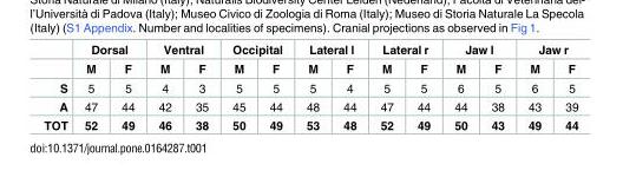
<table><thead><tr><td rowspan="2"></td><td colspan="2">Dorsal</td><td colspan="2">Ventral</td><td colspan="2">Occipital</td><td colspan="2">Lateral l</td><td colspan="2">Lateral r</td><td colspan="2">Jaw l</td><td colspan="2">Jaw r</td></tr><tr><td>M</td><td>F</td><td>M</td><td>F</td><td>M</td><td>F</td><td>M</td><td>F</td><td>M</td><td>F</td><td>M</td><td>F</td><td>M</td><td>F</td></tr></thead><tbody><tr><td>S</td><td>5</td><td>5</td><td>4</td><td>3</td><td>5</td><td>5</td><td>5</td><td>4</td><td>5</td><td>5</td><td>6</td><td>5</td><td>6</td><td>5</td></tr><tr><td>A</td><td>47</td><td>44</td><td>42</td><td>35</td><td>45</td><td>44</td><td>48</td><td>44</td><td>47</td><td>44</td><td>44</td><td>38</td><td>43</td><td>39</td></tr><tr><td>TOT</td><td>52</td><td>49</td><td>46</td><td>38</td><td>50</td><td>49</td><td>53</td><td>48</td><td>52</td><td>49</td><td>50</td><td>43</td><td>49</td><td>44</td></tr></tbody></table>